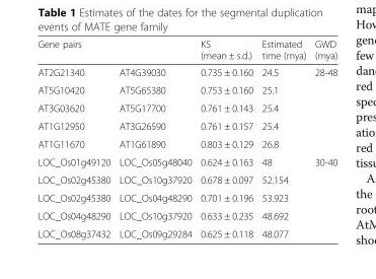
<table><thead><tr><td colspan="2">Gene pairs</td><td rowspan="2">KS (mean ± s.d.) 0.735 ± 0.160</td><td rowspan="2">Estimated time (mya) 24.5</td><td rowspan="2">GWD (mya) 28-48</td></tr><tr><td>AT2G21340</td><td>AT4G39030</td></tr></thead><tbody><tr><td>AT5G10420</td><td>AT5G65380</td><td>0.753 ± 0.160</td><td>25.1</td><td></td></tr><tr><td>AT3G03620</td><td>AT5G17700</td><td>0.761 ± 0.143</td><td>25.4</td><td></td></tr><tr><td>AT1G12950</td><td>AT3G26590</td><td>0.761 ± 0.157</td><td>25.4</td><td></td></tr><tr><td>AT1G11670</td><td>AT1G61890</td><td>0.803 ± 0.129</td><td>26.8</td><td></td></tr><tr><td>LOC_Os01g49120</td><td>LOC_Os05g48040</td><td>0.624 ± 0.163</td><td>48</td><td>30-40</td></tr><tr><td>LOC_Os02g45380</td><td>LOC_Os10g37920</td><td>0.678 ± 0.097</td><td>52.154</td><td></td></tr><tr><td>LOC_Os02g45380</td><td>LOC_Os04g48290</td><td>0.701 ± 0.196</td><td>53.923</td><td></td></tr><tr><td>LOC_Os04g48290</td><td>LOC_Os10g37920</td><td>0.633 ± 0.235</td><td>48.692</td><td></td></tr><tr><td>LOC_Os08g37432</td><td>LOC_Os09g29284</td><td>0.625 ± 0.118</td><td>48.077</td><td></td></tr></tbody></table>